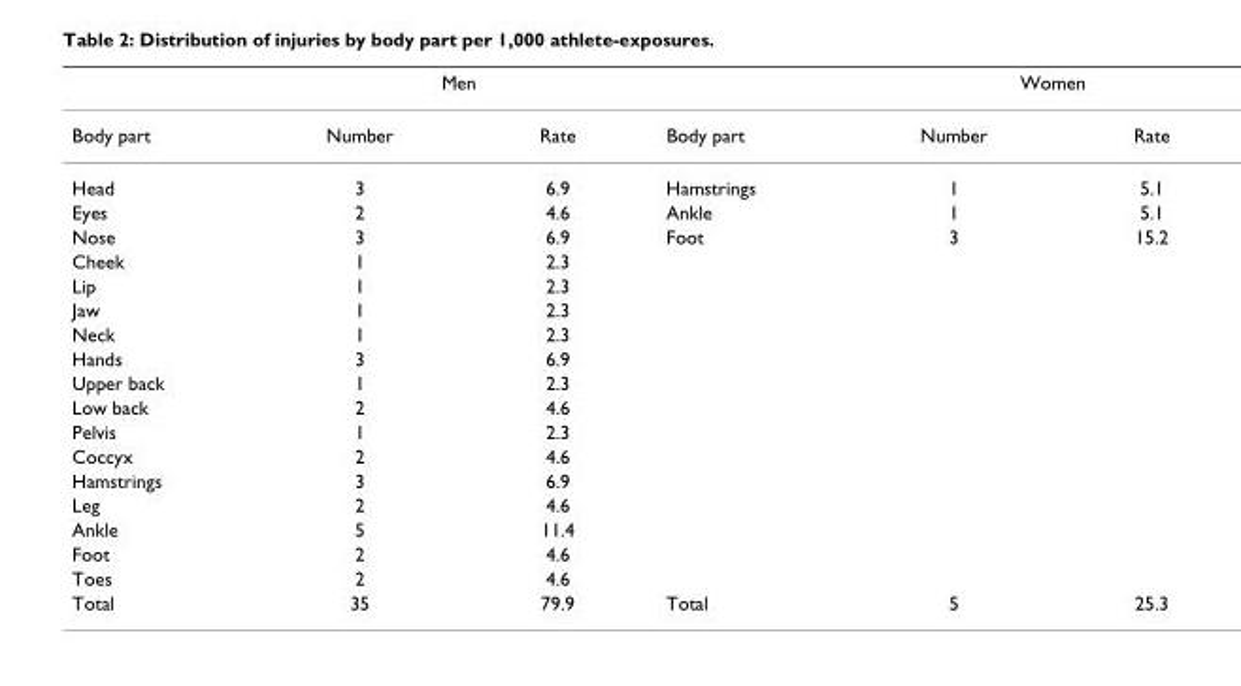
<table><thead><tr><td rowspan="2">Body part</td><td colspan="2">Men</td><td rowspan="2">Body part</td><td colspan="2">Women</td></tr><tr><td>Number</td><td>Rate</td><td>Number</td><td>Rate</td></tr></thead><tbody><tr><td>Head</td><td>3</td><td>6.9</td><td>Hamstrings</td><td>1</td><td>5.1</td></tr><tr><td>Eyes</td><td>2</td><td>4.6</td><td>Ankle</td><td>1</td><td>5.1</td></tr><tr><td>Nose</td><td>3</td><td>6.9</td><td>Foot</td><td>3</td><td>15.2</td></tr><tr><td>Cheek</td><td>1</td><td>2.3</td><td></td><td></td><td></td></tr><tr><td>Lip</td><td>1</td><td>2.3</td><td></td><td></td><td></td></tr><tr><td>Jaw</td><td>1</td><td>2.3</td><td></td><td></td><td></td></tr><tr><td>Neck</td><td>1</td><td>2.3</td><td></td><td></td><td></td></tr><tr><td>Hands</td><td>3</td><td>6.9</td><td></td><td></td><td></td></tr><tr><td>Upper back</td><td>1</td><td>2.3</td><td></td><td></td><td></td></tr><tr><td>Low back</td><td>2</td><td>4.6</td><td></td><td></td><td></td></tr><tr><td>Pelvis</td><td>1</td><td>2.3</td><td></td><td></td><td></td></tr><tr><td>Coccyx</td><td>2</td><td>4.6</td><td></td><td></td><td></td></tr><tr><td>Hamstrings</td><td>3</td><td>6.9</td><td></td><td></td><td></td></tr><tr><td>Leg</td><td>2</td><td>4.6</td><td></td><td></td><td></td></tr><tr><td>Ankle</td><td>5</td><td>11.4</td><td></td><td></td><td></td></tr><tr><td>Foot</td><td>2</td><td>4.6</td><td></td><td></td><td></td></tr><tr><td>Toes</td><td>2</td><td>4.6</td><td></td><td></td><td></td></tr><tr><td>Total</td><td>35</td><td>79.9</td><td>Total</td><td>5</td><td>25.3</td></tr></tbody></table>